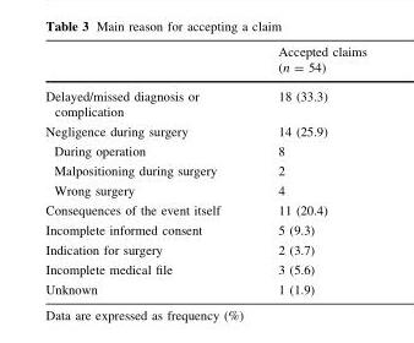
<table><thead><tr><td></td><td>Accepted claims (n = 54)</td></tr></thead><tbody><tr><td>Delayed/missed diagnosis or complication</td><td>18 (33.3)</td></tr><tr><td>Negligence during surgery</td><td>14 (25.9)</td></tr><tr><td>During operation</td><td>8</td></tr><tr><td>Malpositioning during surgery</td><td>2</td></tr><tr><td>Wrong surgery</td><td>4</td></tr><tr><td>Consequences of the event itself</td><td>11 (20.4)</td></tr><tr><td>Incomplete informed consent</td><td>5 (9.3)</td></tr><tr><td>Indication for surgery</td><td>2 (3.7)</td></tr><tr><td>Incomplete medical file</td><td>3 (5.6)</td></tr><tr><td>Unknown</td><td>1 (1.9)</td></tr></tbody></table>